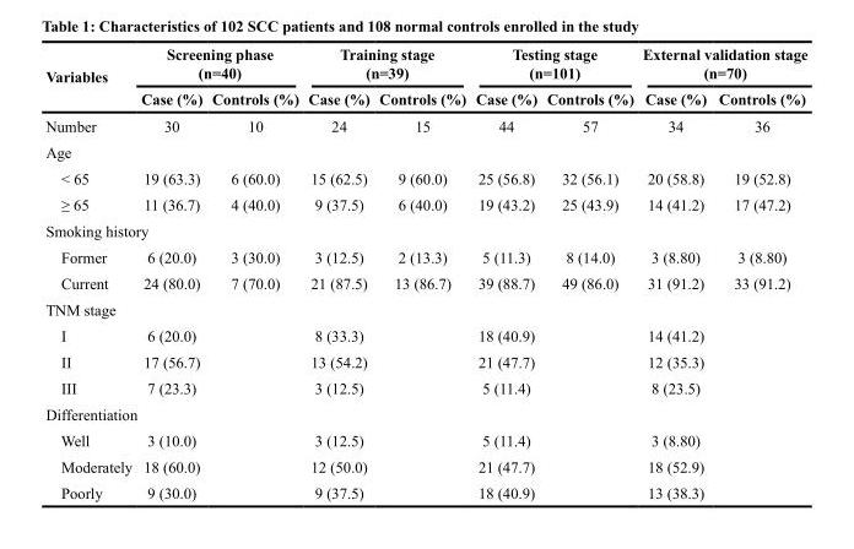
<table><thead><tr><td rowspan="2">Variables</td><td colspan="2">Screening phase (n=40)</td><td colspan="2">Training stage (n=39)</td><td colspan="2">Testing stage (n=101)</td><td colspan="2">External validation stage (n=70)</td></tr><tr><td>Case (%)</td><td>Controls (%)</td><td>Case (%)</td><td>Controls (%)</td><td>Case (%)</td><td>Controls (%)</td><td>Case (%)</td><td>Controls (%)</td></tr></thead><tbody><tr><td>Number</td><td>30</td><td>10</td><td>24</td><td>15</td><td>44</td><td>57</td><td>34</td><td>36</td></tr><tr><td colspan="9">Age</td></tr><tr><td>&lt; 65</td><td>19 (63.3)</td><td>6 (60.0)</td><td>15 (62.5)</td><td>9 (60.0)</td><td>25 (56.8)</td><td>32 (56.1)</td><td>20 (58.8)</td><td>19 (52.8)</td></tr><tr><td>≥ 65</td><td>11 (36.7)</td><td>4 (40.0)</td><td>9 (37.5)</td><td>6 (40.0)</td><td>19 (43.2)</td><td>25 (43.9)</td><td>14 (41.2)</td><td>17 (47.2)</td></tr><tr><td colspan="9">Smoking history</td></tr><tr><td>Former</td><td>6 (20.0)</td><td>3 (30.0)</td><td>3 (12.5)</td><td>2 (13.3)</td><td>5 (11.3)</td><td>8 (14.0)</td><td>3 (8.80)</td><td>3 (8.80)</td></tr><tr><td>Current</td><td>24 (80.0)</td><td>7 (70.0)</td><td>21 (87.5)</td><td>13 (86.7)</td><td>39 (88.7)</td><td>49 (86.0)</td><td>31 (91.2)</td><td>33 (91.2)</td></tr><tr><td colspan="9">TNM stage</td></tr><tr><td>I</td><td>6 (20.0)</td><td></td><td>8 (33.3)</td><td></td><td>18 (40.9)</td><td></td><td>14 (41.2)</td><td></td></tr><tr><td>II</td><td>17 (56.7)</td><td></td><td>13 (54.2)</td><td></td><td>21 (47.7)</td><td></td><td>12 (35.3)</td><td></td></tr><tr><td>III</td><td>7 (23.3)</td><td></td><td>3 (12.5)</td><td></td><td>5 (11.4)</td><td></td><td>8 (23.5)</td><td></td></tr><tr><td colspan="9">Differentiation</td></tr><tr><td>Well</td><td>3 (10.0)</td><td></td><td>3 (12.5)</td><td></td><td>5 (11.4)</td><td></td><td>3 (8.80)</td><td></td></tr><tr><td>Moderately</td><td>18 (60.0)</td><td></td><td>12 (50.0)</td><td></td><td>21 (47.7)</td><td></td><td>18 (52.9)</td><td></td></tr><tr><td>Poorly</td><td>9 (30.0)</td><td></td><td>9 (37.5)</td><td></td><td>18 (40.9)</td><td></td><td>13 (38.3)</td><td></td></tr></tbody></table>